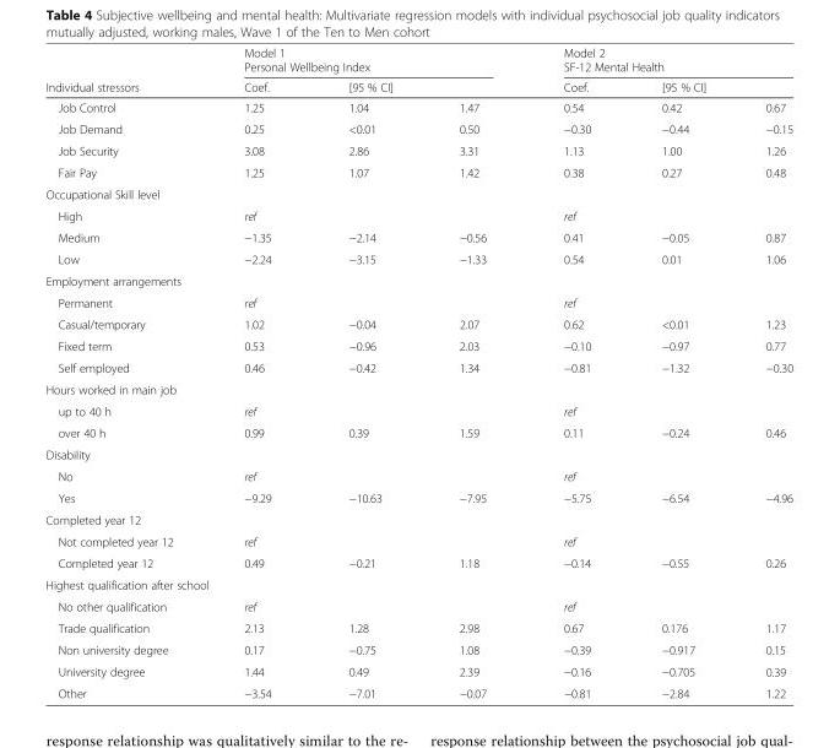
<table><thead><tr><td rowspan="3">Individual stressors Job Control</td><td colspan="3">Model 1 Personal Wellbeing Index</td><td colspan="3">Model 2 SF-12 Mental Health</td></tr><tr><td rowspan="2">Coef. 1.25</td><td colspan="2">[95 % CI]</td><td rowspan="2">Coef. 0.54</td><td colspan="2">[95 % CI]</td></tr><tr><td>1.04</td><td>1.47</td><td>0.42</td><td>0.67</td></tr></thead><tbody><tr><td>Job Demand</td><td>0.25</td><td>&lt;0.01</td><td>0.50</td><td>−0.30</td><td>−0.44</td><td>−0.15</td></tr><tr><td>Job Security</td><td>3.08</td><td>2.86</td><td>3.31</td><td>1.13</td><td>1.00</td><td>1.26</td></tr><tr><td>Fair Pay</td><td>1.25</td><td>1.07</td><td>1.42</td><td>0.38</td><td>0.27</td><td>0.48</td></tr><tr><td colspan="7">Occupational Skill level</td></tr><tr><td>High</td><td>ref</td><td></td><td></td><td>ref</td><td></td><td></td></tr><tr><td>Medium</td><td>−1.35</td><td>−2.14</td><td>−0.56</td><td>0.41</td><td>−0.05</td><td>0.87</td></tr><tr><td>Low</td><td>−2.24</td><td>−3.15</td><td>−1.33</td><td>0.54</td><td>0.01</td><td>1.06</td></tr><tr><td colspan="7">Employment arrangements</td></tr><tr><td>Permanent</td><td>ref</td><td></td><td></td><td>ref</td><td></td><td></td></tr><tr><td>Casual/temporary</td><td>1.02</td><td>−0.04</td><td>2.07</td><td>0.62</td><td>&lt;0.01</td><td>1.23</td></tr><tr><td>Fixed term</td><td>0.53</td><td>−0.96</td><td>2.03</td><td>−0.10</td><td>−0.97</td><td>0.77</td></tr><tr><td>Self employed</td><td>0.46</td><td>−0.42</td><td>1.34</td><td>−0.81</td><td>−1.32</td><td>−0.30</td></tr><tr><td colspan="7">Hours worked in main job</td></tr><tr><td>up to 40 h</td><td>ref</td><td></td><td></td><td>ref</td><td></td><td></td></tr><tr><td>over 40 h</td><td>0.99</td><td>0.39</td><td>1.59</td><td>0.11</td><td>−0.24</td><td>0.46</td></tr><tr><td colspan="7">Disability</td></tr><tr><td>No</td><td>ref</td><td></td><td></td><td>ref</td><td></td><td></td></tr><tr><td>Yes</td><td>−9.29</td><td>−10.63</td><td>−7.95</td><td>−5.75</td><td>−6.54</td><td>−4.96</td></tr><tr><td colspan="7">Completed year 12</td></tr><tr><td>Not completed year 12</td><td>ref</td><td></td><td></td><td>ref</td><td></td><td></td></tr><tr><td>Completed year 12</td><td>0.49</td><td>−0.21</td><td>1.18</td><td>−0.14</td><td>−0.55</td><td>0.26</td></tr><tr><td colspan="7">Highest qualification after school</td></tr><tr><td>No other qualification</td><td>ref</td><td></td><td></td><td>ref</td><td></td><td></td></tr><tr><td>Trade qualification</td><td>2.13</td><td>1.28</td><td>2.98</td><td>0.67</td><td>0.176</td><td>1.17</td></tr><tr><td>Non university degree</td><td>0.17</td><td>−0.75</td><td>1.08</td><td>−0.39</td><td>−0.917</td><td>0.15</td></tr><tr><td>University degree</td><td>1.44</td><td>0.49</td><td>2.39</td><td>−0.16</td><td>−0.705</td><td>0.39</td></tr><tr><td>Other</td><td>−3.54</td><td>−7.01</td><td>−0.07</td><td>−0.81</td><td>−2.84</td><td>1.22</td></tr></tbody></table>